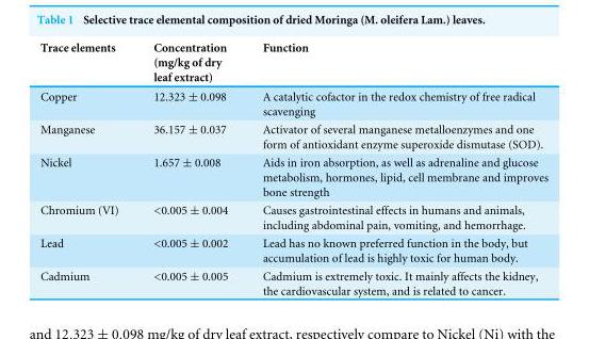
<table><thead><tr><td>Trace elements</td><td>Concentration (mg/kg of dry leaf extract)</td><td>Function</td></tr></thead><tbody><tr><td>Copper</td><td>12.323 ± 0.098</td><td>A catalytic cofactor in the redox chemistry of free radical scavenging</td></tr><tr><td>Manganese</td><td>36.157 ± 0.037</td><td>Activator of several manganese metalloenzymes and one form of antioxidant enzyme superoxide dismutase (SOD).</td></tr><tr><td>Nickel</td><td>1.657 ± 0.008</td><td>Aids in iron absorption, as well as adrenaline and glucose metabolism, hormones, lipid, cell membrane and improves bone strength</td></tr><tr><td>Chromium (VI)</td><td>&lt;0.005 ± 0.004</td><td>Causes gastrointestinal effects in humans and animals, including abdominal pain, vomiting, and hemorrhage.</td></tr><tr><td>Lead</td><td>&lt;0.005 ± 0.002</td><td>Lead has no known preferred function in the body, but accumulation of lead is highly toxic for human body.</td></tr><tr><td>Cadmium</td><td>&lt;0.005 ± 0.005</td><td>Cadmium is extremely toxic. It mainly affects the kidney, the cardiovascular system, and is related to cancer.</td></tr></tbody></table>